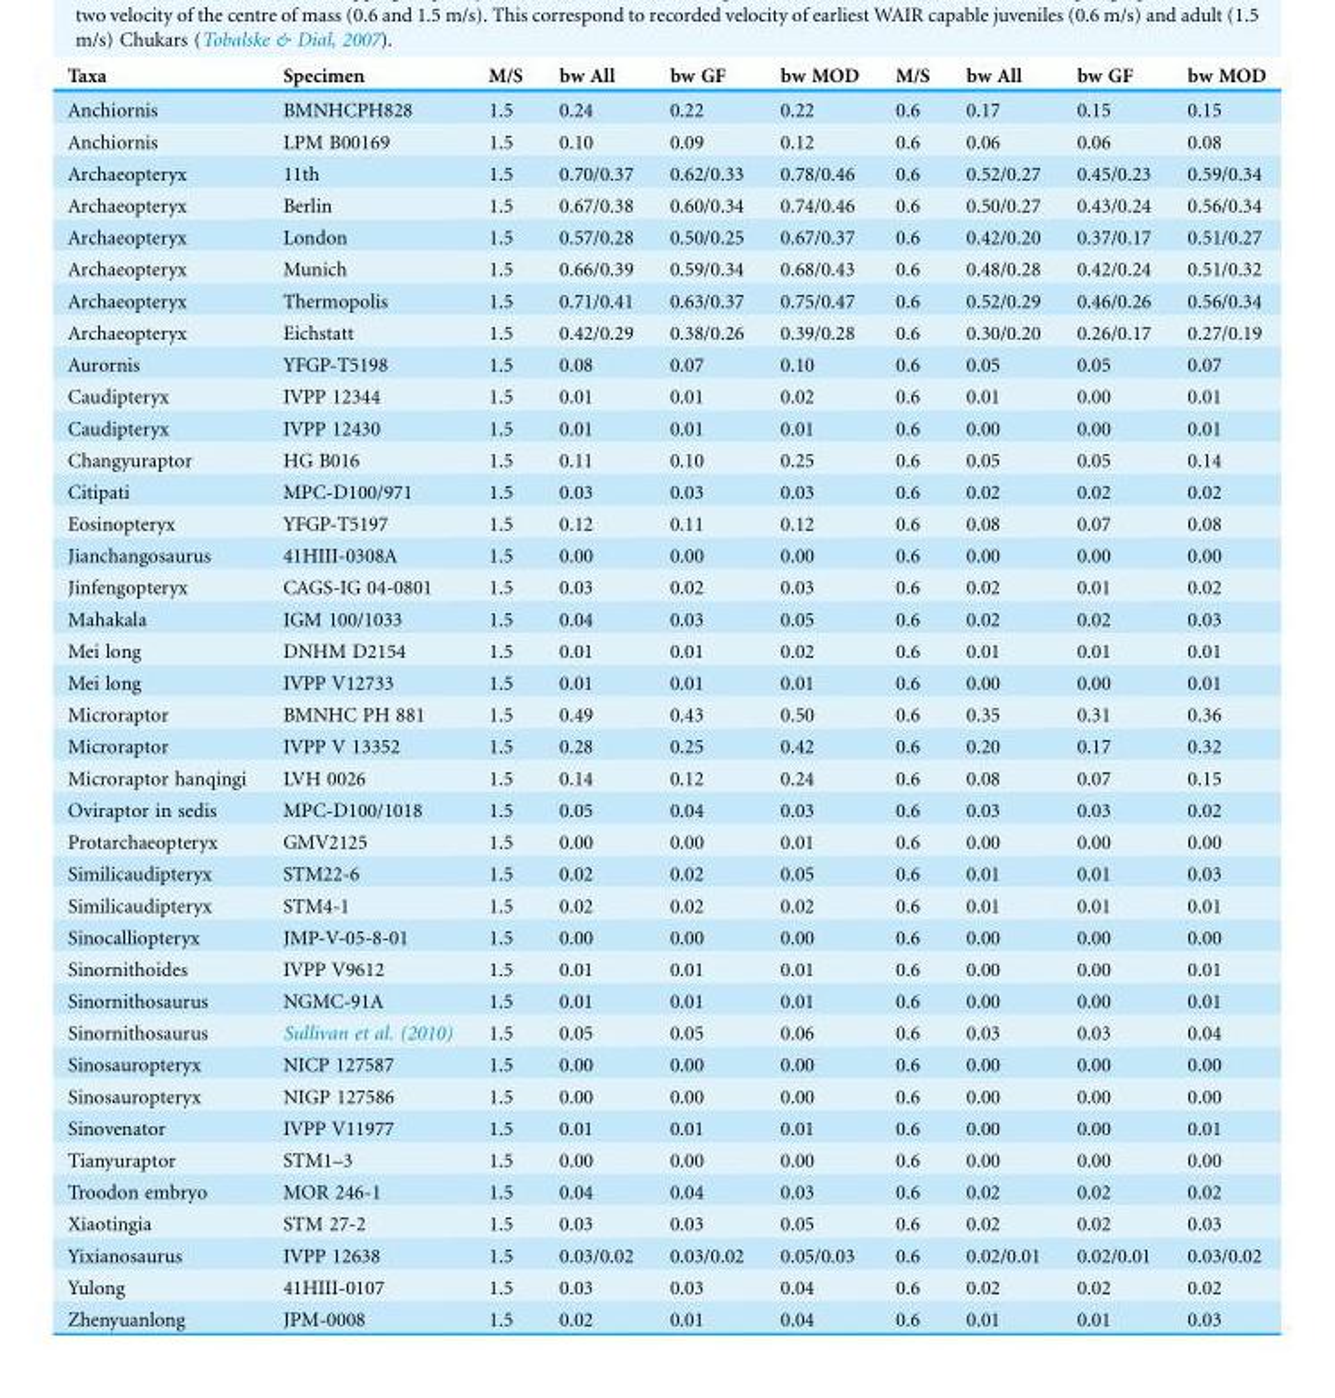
<table><thead><tr><td>Taxa</td><td>Specimen</td><td>M/S</td><td>bw All</td><td>bw GF</td><td>bw MOD</td><td>M/S</td><td>bw All</td><td>bw GF</td><td>bw MOD</td></tr></thead><tbody><tr><td>Anchiornis</td><td>BMNHCPH828</td><td>1.5</td><td>0.24</td><td>0.22</td><td>0.22</td><td>0.6</td><td>0.17</td><td>0.15</td><td>0.15</td></tr><tr><td>Anchiornis</td><td>LPM B00169</td><td>1.5</td><td>0.10</td><td>0.09</td><td>0.12</td><td>0.6</td><td>0.06</td><td>0.06</td><td>0.08</td></tr><tr><td>Archaeopteryx</td><td>11th</td><td>1.5</td><td>0.70/0.37</td><td>0.62/0.33</td><td>0.78/0.46</td><td>0.6</td><td>0.52/0.27</td><td>0.45/0.23</td><td>0.59/0.34</td></tr><tr><td>Archaeopteryx</td><td>Berlin</td><td>1.5</td><td>0.67/0.38</td><td>0.60/0.34</td><td>0.74/0.46</td><td>0.6</td><td>0.50/0.27</td><td>0.43/0.24</td><td>0.56/0.34</td></tr><tr><td>Archaeopteryx</td><td>London</td><td>1.5</td><td>0.57/0.28</td><td>0.50/0.25</td><td>0.67/0.37</td><td>0.6</td><td>0.42/0.20</td><td>0.37/0.17</td><td>0.51/0.27</td></tr><tr><td>Archaeopteryx</td><td>Munich</td><td>1.5</td><td>0.66/0.39</td><td>0.59/0.34</td><td>0.68/0.43</td><td>0.6</td><td>0.48/0.28</td><td>0.42/0.24</td><td>0.51/0.32</td></tr><tr><td>Archaeopteryx</td><td>Thermopolis</td><td>1.5</td><td>0.71/0.41</td><td>0.63/0.37</td><td>0.75/0.47</td><td>0.6</td><td>0.52/0.29</td><td>0.46/0.26</td><td>0.56/0.34</td></tr><tr><td>Archaeopteryx</td><td>Eichstatt</td><td>1.5</td><td>0.42/0.29</td><td>0.38/0.26</td><td>0.39/0.28</td><td>0.6</td><td>0.30/0.20</td><td>0.26/0.17</td><td>0.27/0.19</td></tr><tr><td>Aurornis</td><td>YFGP-T5198</td><td>1.5</td><td>0.08</td><td>0.07</td><td>0.10</td><td>0.6</td><td>0.05</td><td>0.05</td><td>0.07</td></tr><tr><td>Caudipteryx</td><td>IVPP 12344</td><td>1.5</td><td>0.01</td><td>0.01</td><td>0.02</td><td>0.6</td><td>0.01</td><td>0.00</td><td>0.01</td></tr><tr><td>Caudipteryx</td><td>IVPP 12430</td><td>1.5</td><td>0.01</td><td>0.01</td><td>0.01</td><td>0.6</td><td>0.00</td><td>0.00</td><td>0.01</td></tr><tr><td>Changyuraptor</td><td>HG B016</td><td>1.5</td><td>0.11</td><td>0.10</td><td>0.25</td><td>0.6</td><td>0.05</td><td>0.05</td><td>0.14</td></tr><tr><td>Citipati</td><td>MPC-D100/971</td><td>1.5</td><td>0.03</td><td>0.03</td><td>0.03</td><td>0.6</td><td>0.02</td><td>0.02</td><td>0.02</td></tr><tr><td>Eosinopteryx</td><td>YFGP-T5197</td><td>1.5</td><td>0.12</td><td>0.11</td><td>0.12</td><td>0.6</td><td>0.08</td><td>0.07</td><td>0.08</td></tr><tr><td>Jianchangosaurus</td><td>41HIII-0308A</td><td>1.5</td><td>0.00</td><td>0.00</td><td>0.00</td><td>0.6</td><td>0.00</td><td>0.00</td><td>0.00</td></tr><tr><td>Jinfengopteryx</td><td>CAGS-IG 04-0801</td><td>1.5</td><td>0.03</td><td>0.02</td><td>0.03</td><td>0.6</td><td>0.02</td><td>0.01</td><td>0.02</td></tr><tr><td>Mahakala</td><td>IGM 100/1033</td><td>1.5</td><td>0.04</td><td>0.03</td><td>0.05</td><td>0.6</td><td>0.02</td><td>0.02</td><td>0.03</td></tr><tr><td>Mei long</td><td>DNHM D2154</td><td>1.5</td><td>0.01</td><td>0.01</td><td>0.02</td><td>0.6</td><td>0.01</td><td>0.01</td><td>0.01</td></tr><tr><td>Mei long</td><td>IVPP V12733</td><td>1.5</td><td>0.01</td><td>0.01</td><td>0.01</td><td>0.6</td><td>0.00</td><td>0.00</td><td>0.01</td></tr><tr><td>Microraptor</td><td>BMNHC PH 881</td><td>1.5</td><td>0.49</td><td>0.43</td><td>0.50</td><td>0.6</td><td>0.35</td><td>0.31</td><td>0.36</td></tr><tr><td>Microraptor</td><td>IVPP V 13352</td><td>1.5</td><td>0.28</td><td>0.25</td><td>0.42</td><td>0.6</td><td>0.20</td><td>0.17</td><td>0.32</td></tr><tr><td>Microraptor hanqingi</td><td>LVH 0026</td><td>1.5</td><td>0.14</td><td>0.12</td><td>0.24</td><td>0.6</td><td>0.08</td><td>0.07</td><td>0.15</td></tr><tr><td>Oviraptor in sedis</td><td>MPC-D100/1018</td><td>1.5</td><td>0.05</td><td>0.04</td><td>0.03</td><td>0.6</td><td>0.03</td><td>0.03</td><td>0.02</td></tr><tr><td>Protarchaeopteryx</td><td>GMV2125</td><td>1.5</td><td>0.00</td><td>0.00</td><td>0.01</td><td>0.6</td><td>0.00</td><td>0.00</td><td>0.00</td></tr><tr><td>Similicaudipteryx</td><td>STM22-6</td><td>1.5</td><td>0.02</td><td>0.02</td><td>0.05</td><td>0.6</td><td>0.01</td><td>0.01</td><td>0.03</td></tr><tr><td>Similicaudipteryx</td><td>STM4-1</td><td>1.5</td><td>0.02</td><td>0.02</td><td>0.02</td><td>0.6</td><td>0.01</td><td>0.01</td><td>0.01</td></tr><tr><td>Sinocalliopteryx</td><td>JMP-V-05-8-01</td><td>1.5</td><td>0.00</td><td>0.00</td><td>0.00</td><td>0.6</td><td>0.00</td><td>0.00</td><td>0.00</td></tr><tr><td>Sinornithoides</td><td>IVPP V9612</td><td>1.5</td><td>0.01</td><td>0.01</td><td>0.01</td><td>0.6</td><td>0.00</td><td>0.00</td><td>0.01</td></tr><tr><td>Sinornithosaurus</td><td>NGMC-91A</td><td>1.5</td><td>0.01</td><td>0.01</td><td>0.01</td><td>0.6</td><td>0.00</td><td>0.00</td><td>0.01</td></tr><tr><td>Sinornithosaurus</td><td>Sullivan et al. (2010)</td><td>1.5</td><td>0.05</td><td>0.05</td><td>0.06</td><td>0.6</td><td>0.03</td><td>0.03</td><td>0.04</td></tr><tr><td>Sinosauropteryx</td><td>NICP 127587</td><td>1.5</td><td>0.00</td><td>0.00</td><td>0.00</td><td>0.6</td><td>0.00</td><td>0.00</td><td>0.00</td></tr><tr><td>Sinosauropteryx</td><td>NIGP 127586</td><td>1.5</td><td>0.00</td><td>0.00</td><td>0.00</td><td>0.6</td><td>0.00</td><td>0.00</td><td>0.00</td></tr><tr><td>Sinovenator</td><td>IVPP V11977</td><td>1.5</td><td>0.01</td><td>0.01</td><td>0.01</td><td>0.6</td><td>0.00</td><td>0.00</td><td>0.01</td></tr><tr><td>Tianyuraptor</td><td>STM1–3</td><td>1.5</td><td>0.00</td><td>0.00</td><td>0.00</td><td>0.6</td><td>0.00</td><td>0.00</td><td>0.00</td></tr><tr><td>Troodon embryo</td><td>MOR 246-1</td><td>1.5</td><td>0.04</td><td>0.04</td><td>0.03</td><td>0.6</td><td>0.02</td><td>0.02</td><td>0.02</td></tr><tr><td>Xiaotingia</td><td>STM 27-2</td><td>1.5</td><td>0.03</td><td>0.03</td><td>0.05</td><td>0.6</td><td>0.02</td><td>0.02</td><td>0.03</td></tr><tr><td>Yixianosaurus</td><td>IVPP 12638</td><td>1.5</td><td>0.03/0.02</td><td>0.03/0.02</td><td>0.05/0.03</td><td>0.6</td><td>0.02/0.01</td><td>0.02/0.01</td><td>0.03/0.02</td></tr><tr><td>Yulong</td><td>41HIII-0107</td><td>1.5</td><td>0.03</td><td>0.03</td><td>0.04</td><td>0.6</td><td>0.02</td><td>0.02</td><td>0.02</td></tr><tr><td>Zhenyuanlong</td><td>JPM-0008</td><td>1.5</td><td>0.02</td><td>0.01</td><td>0.04</td><td>0.6</td><td>0.01</td><td>0.01</td><td>0.03</td></tr></tbody></table>